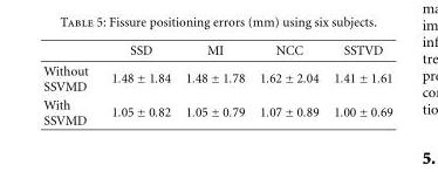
<table><thead><tr><td></td><td>SSD</td><td>MI</td><td>NCC</td><td>SSTVD</td></tr></thead><tbody><tr><td>Without SSVMD</td><td>1.48 ± 1.84</td><td>1.48 ± 1.78</td><td>1.62 ± 2.04</td><td>1.41 ± 1.61</td></tr><tr><td>With SSVMD</td><td>1.05 ± 0.82</td><td>1.05 ± 0.79</td><td>1.07 ± 0.89</td><td>1.00 ± 0.69</td></tr></tbody></table>